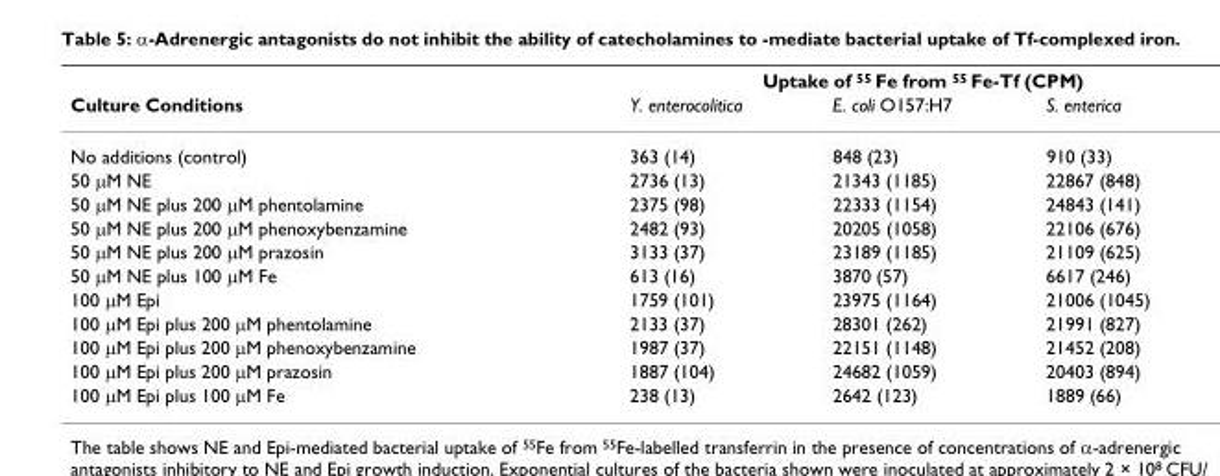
<table><thead><tr><td rowspan="2">Culture Conditions</td><td colspan="3">Uptake of 55 Fe from 55 Fe-Tf (CPM)</td></tr><tr><td>Y. enterocolitica</td><td>E. coli O157:H7</td><td>S. enterica</td></tr></thead><tbody><tr><td>No additions (control)</td><td>363 (14)</td><td>848 (23)</td><td>910 (33)</td></tr><tr><td>50 μM NE</td><td>2736 (13)</td><td>21343 (1185)</td><td>22867 (848)</td></tr><tr><td>50 μM NE plus 200 μM phentolamine</td><td>2375 (98)</td><td>22333 (1154)</td><td>24843 (141)</td></tr><tr><td>50 μM NE plus 200 μM phenoxybenzamine</td><td>2482 (93)</td><td>20205 (1058)</td><td>22106 (676)</td></tr><tr><td>50 μM NE plus 200 μM prazosin</td><td>3133 (37)</td><td>23189 (1185)</td><td>21109 (625)</td></tr><tr><td>50 μM NE plus 100 μM Fe</td><td>613 (16)</td><td>3870 (57)</td><td>6617 (246)</td></tr><tr><td>100 μM Epi</td><td>1759 (101)</td><td>23975 (1164)</td><td>21006 (1045)</td></tr><tr><td>100 μM Epi plus 200 μM phentolamine</td><td>2133 (37)</td><td>28301 (262)</td><td>21991 (827)</td></tr><tr><td>100 μM Epi plus 200 μM phenoxybenzamine</td><td>1987 (37)</td><td>22151 (1148)</td><td>21452 (208)</td></tr><tr><td>100 μM Epi plus 200 μM prazosin</td><td>1887 (104)</td><td>24682 (1059)</td><td>20403 (894)</td></tr><tr><td>100 μM Epi plus 100 μM Fe</td><td>238 (13)</td><td>2642 (123)</td><td>1889 (66)</td></tr></tbody></table>